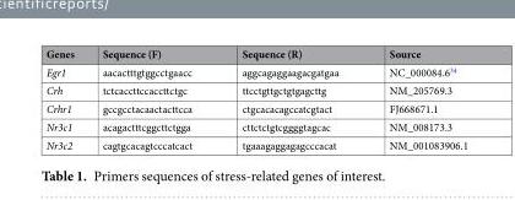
<table><thead><tr><td>Genes</td><td>Sequence (F)</td><td>Sequence (R)</td><td>Source</td></tr></thead><tbody><tr><td>Egr1</td><td>aacactttgtggcctgaacc</td><td>aggcagaggaagacgatgaa</td><td>NC_000084.6<sup>34</sup></td></tr><tr><td>Crh</td><td>tctcaccttccaccttctgc</td><td>ttcctgttgctgtgagcttg</td><td>NM_205769.3</td></tr><tr><td>Crhr1</td><td>gccgcctacaactacttcca</td><td>ctgcacacagccatcgtact</td><td>FJ668671.1</td></tr><tr><td>Nr3c1</td><td>acagactttcggcttctgga</td><td>cttctctgtcggggtagcac</td><td>NM_008173.3</td></tr><tr><td>Nr3c2</td><td>cagtgcacagtcccatcact</td><td>tgaaagaggagagcccacat</td><td>NM_001083906.1</td></tr></tbody></table>